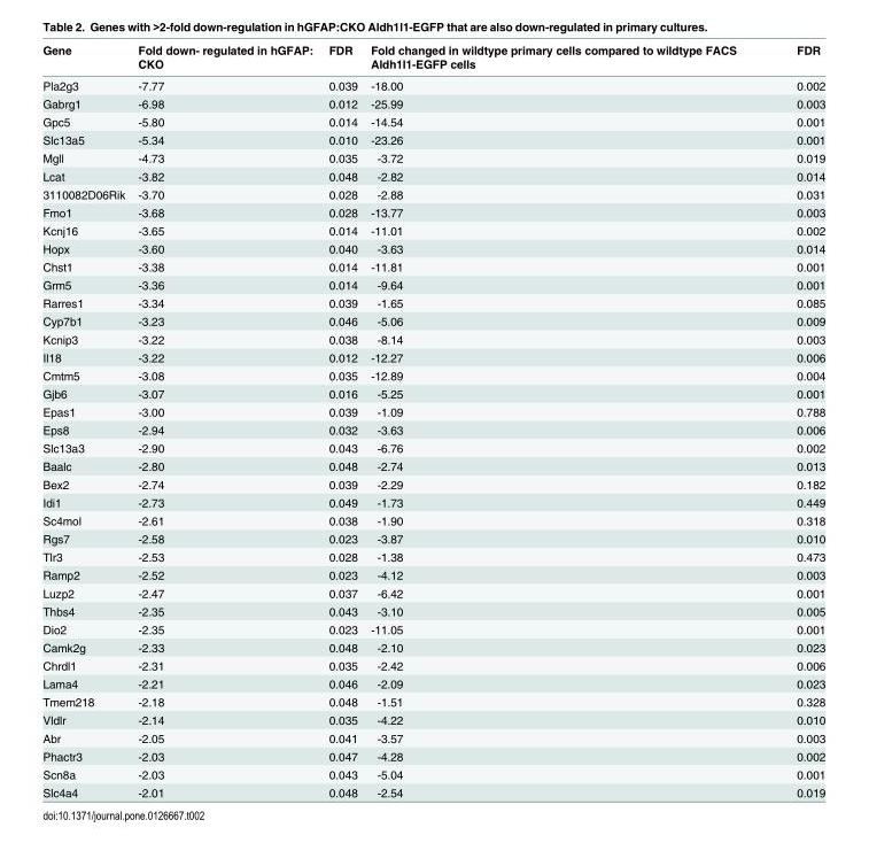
<table><thead><tr><td>Gene</td><td>Fold down- regulated in hGFAP: CKO</td><td>FDR</td><td>Fold changed in wildtype primary cells compared to wildtype FACS Aldh1l1-EGFP cells</td><td>FDR</td></tr></thead><tbody><tr><td>Pla2g3</td><td>-7.77</td><td>0.039</td><td>-18.00</td><td>0.002</td></tr><tr><td>Gabrg1</td><td>-6.98</td><td>0.012</td><td>-25.99</td><td>0.003</td></tr><tr><td>Gpc5</td><td>-5.80</td><td>0.014</td><td>-14.54</td><td>0.001</td></tr><tr><td>Slc13a5</td><td>-5.34</td><td>0.010</td><td>-23.26</td><td>0.001</td></tr><tr><td>Mgll</td><td>-4.73</td><td>0.035</td><td>-3.72</td><td>0.019</td></tr><tr><td>Lcat</td><td>-3.82</td><td>0.048</td><td>-2.82</td><td>0.014</td></tr><tr><td>3110082D06Rik</td><td>-3.70</td><td>0.028</td><td>-2.88</td><td>0.031</td></tr><tr><td>Fmo1</td><td>-3.68</td><td>0.028</td><td>-13.77</td><td>0.003</td></tr><tr><td>Kcnj16</td><td>-3.65</td><td>0.014</td><td>-11.01</td><td>0.002</td></tr><tr><td>Hopx</td><td>-3.60</td><td>0.040</td><td>-3.63</td><td>0.014</td></tr><tr><td>Chst1</td><td>-3.38</td><td>0.014</td><td>-11.81</td><td>0.001</td></tr><tr><td>Grm5</td><td>-3.36</td><td>0.014</td><td>-9.64</td><td>0.001</td></tr><tr><td>Rarres1</td><td>-3.34</td><td>0.039</td><td>-1.65</td><td>0.085</td></tr><tr><td>Cyp7b1</td><td>-3.23</td><td>0.046</td><td>-5.06</td><td>0.009</td></tr><tr><td>Kcnip3</td><td>-3.22</td><td>0.038</td><td>-8.14</td><td>0.003</td></tr><tr><td>Il18</td><td>-3.22</td><td>0.012</td><td>-12.27</td><td>0.006</td></tr><tr><td>Cmtm5</td><td>-3.08</td><td>0.035</td><td>-12.89</td><td>0.004</td></tr><tr><td>Gjb6</td><td>-3.07</td><td>0.016</td><td>-5.25</td><td>0.001</td></tr><tr><td>Epas1</td><td>-3.00</td><td>0.039</td><td>-1.09</td><td>0.788</td></tr><tr><td>Eps8</td><td>-2.94</td><td>0.032</td><td>-3.63</td><td>0.006</td></tr><tr><td>Slc13a3</td><td>-2.90</td><td>0.043</td><td>-6.76</td><td>0.002</td></tr><tr><td>Baalc</td><td>-2.80</td><td>0.048</td><td>-2.74</td><td>0.013</td></tr><tr><td>Bex2</td><td>-2.74</td><td>0.039</td><td>-2.29</td><td>0.182</td></tr><tr><td>Idi1</td><td>-2.73</td><td>0.049</td><td>-1.73</td><td>0.449</td></tr><tr><td>Sc4mol</td><td>-2.61</td><td>0.038</td><td>-1.90</td><td>0.318</td></tr><tr><td>Rgs7</td><td>-2.58</td><td>0.023</td><td>-3.87</td><td>0.010</td></tr><tr><td>Tlr3</td><td>-2.53</td><td>0.028</td><td>-1.38</td><td>0.473</td></tr><tr><td>Ramp2</td><td>-2.52</td><td>0.023</td><td>-4.12</td><td>0.003</td></tr><tr><td>Luzp2</td><td>-2.47</td><td>0.037</td><td>-6.42</td><td>0.001</td></tr><tr><td>Thbs4</td><td>-2.35</td><td>0.043</td><td>-3.10</td><td>0.005</td></tr><tr><td>Dio2</td><td>-2.35</td><td>0.023</td><td>-11.05</td><td>0.001</td></tr><tr><td>Camk2g</td><td>-2.33</td><td>0.048</td><td>-2.10</td><td>0.023</td></tr><tr><td>Chrdl1</td><td>-2.31</td><td>0.035</td><td>-2.42</td><td>0.006</td></tr><tr><td>Lama4</td><td>-2.21</td><td>0.046</td><td>-2.09</td><td>0.023</td></tr><tr><td>Tmem218</td><td>-2.18</td><td>0.048</td><td>-1.51</td><td>0.328</td></tr><tr><td>Vldlr</td><td>-2.14</td><td>0.035</td><td>-4.22</td><td>0.010</td></tr><tr><td>Abr</td><td>-2.05</td><td>0.041</td><td>-3.57</td><td>0.003</td></tr><tr><td>Phactr3</td><td>-2.03</td><td>0.047</td><td>-4.28</td><td>0.002</td></tr><tr><td>Scn8a</td><td>-2.03</td><td>0.043</td><td>-5.04</td><td>0.001</td></tr><tr><td>Slc4a4</td><td>-2.01</td><td>0.048</td><td>-2.54</td><td>0.019</td></tr></tbody></table>